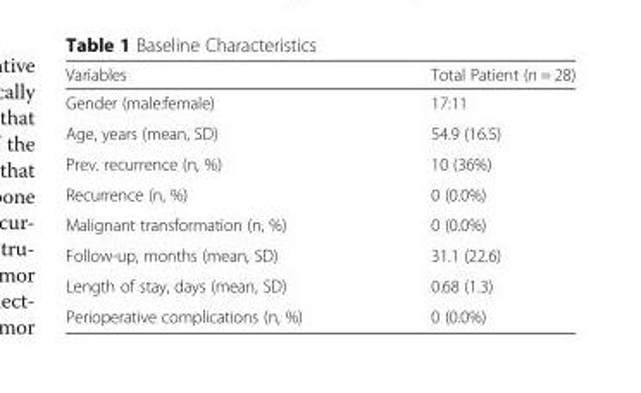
<table><thead><tr><td>Variables</td><td>Total Patient (n = 28)</td></tr></thead><tbody><tr><td>Gender (male:female)</td><td>17:11</td></tr><tr><td>Age, years (mean, SD)</td><td>54.9 (16.5)</td></tr><tr><td>Prev. recurrence (n, %)</td><td>10 (36%)</td></tr><tr><td>Recurrence (n, %)</td><td>0 (0.0%)</td></tr><tr><td>Malignant transformation (n, %)</td><td>0 (0.0%)</td></tr><tr><td>Follow-up, months (mean, SD)</td><td>31.1 (22.6)</td></tr><tr><td>Length of stay, days (mean, SD)</td><td>0.68 (1.3)</td></tr><tr><td>Perioperative complications (n, %)</td><td>0 (0.0%)</td></tr></tbody></table>